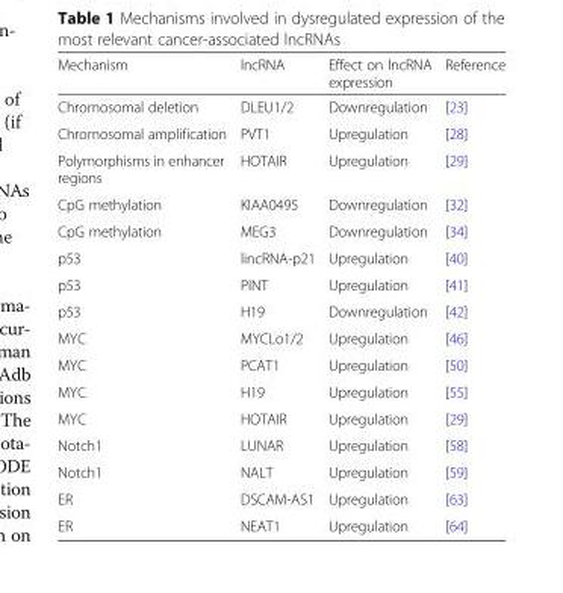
<table><thead><tr><td>Mechanism</td><td>lncRNA</td><td>Effect on lncRNA expression</td><td>Reference</td></tr></thead><tbody><tr><td>Chromosomal deletion</td><td>DLEU1/2</td><td>Downregulation</td><td>[23]</td></tr><tr><td>Chromosomal amplification</td><td>PVT1</td><td>Upregulation</td><td>[28]</td></tr><tr><td>Polymorphisms in enhancer regions</td><td>HOTAIR</td><td>Upregulation</td><td>[29]</td></tr><tr><td>CpG methylation</td><td>KIAA0495</td><td>Downregulation</td><td>[32]</td></tr><tr><td>CpG methylation</td><td>MEG3</td><td>Downregulation</td><td>[34]</td></tr><tr><td>p53</td><td>lincRNA-p21</td><td>Upregulation</td><td>[40]</td></tr><tr><td>p53</td><td>PINT</td><td>Upregulation</td><td>[41]</td></tr><tr><td>p53</td><td>H19</td><td>Downregulation</td><td>[42]</td></tr><tr><td>MYC</td><td>MYCLo1/2</td><td>Upregulation</td><td>[46]</td></tr><tr><td>MYC</td><td>PCAT1</td><td>Upregulation</td><td>[50]</td></tr><tr><td>MYC</td><td>H19</td><td>Upregulation</td><td>[55]</td></tr><tr><td>MYC</td><td>HOTAIR</td><td>Upregulation</td><td>[29]</td></tr><tr><td>Notch1</td><td>LUNAR</td><td>Upregulation</td><td>[58]</td></tr><tr><td>Notch1</td><td>NALT</td><td>Upregulation</td><td>[59]</td></tr><tr><td>ER</td><td>DSCAM-AS1</td><td>Upregulation</td><td>[63]</td></tr><tr><td>ER</td><td>NEAT1</td><td>Upregulation</td><td>[64]</td></tr></tbody></table>